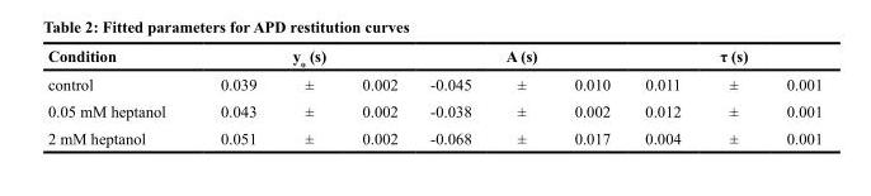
<table><thead><tr><td rowspan="2">Condition control</td><td colspan="3">y<sub>o</sub> (s)</td><td colspan="3">A (s)</td><td colspan="3">τ (s)</td></tr><tr><td>0.039</td><td>±</td><td>0.002</td><td>-0.045</td><td>±</td><td>0.010</td><td>0.011</td><td>±</td><td>0.001</td></tr></thead><tbody><tr><td>0.05 mM heptanol</td><td>0.043</td><td>±</td><td>0.002</td><td>-0.038</td><td>±</td><td>0.002</td><td>0.012</td><td>±</td><td>0.001</td></tr><tr><td>2 mM heptanol</td><td>0.051</td><td>±</td><td>0.002</td><td>-0.068</td><td>±</td><td>0.017</td><td>0.004</td><td>±</td><td>0.001</td></tr></tbody></table>